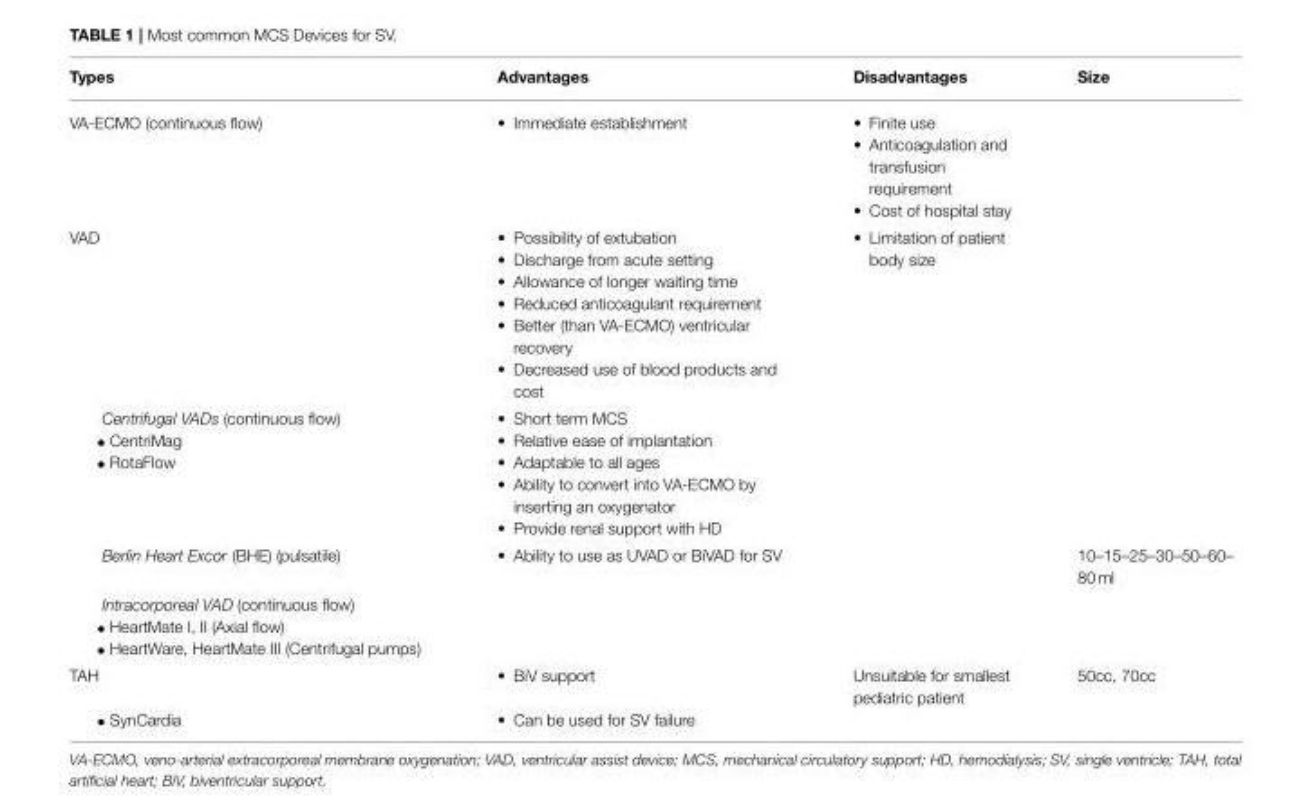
<table><thead><tr><td>Types</td><td>Advantages</td><td>Disadvantages</td><td>Size</td></tr></thead><tbody><tr><td>VA-ECMO (continuous flow)</td><td>• Immediate establishment</td><td>• Finite use • Anticoagulation and transfusion requirement • Cost of hospital stay</td><td></td></tr><tr><td>VAD</td><td>• Possibility of extubation • Discharge from acute setting • Allowance of longer waiting time • Reduced anticoagulant requirement • Better (than VA-ECMO) ventricular recovery • Decreased use of blood products and cost</td><td>• Limitation of patient body size</td><td></td></tr><tr><td>Centrifugal VADs (continuous flow) • CentriMag • RotaFlow</td><td>• Short term MCS • Relative ease of implantation • Adaptable to all ages • Ability to convert into VA-ECMO by inserting an oxygenator • Provide renal support with HD</td><td></td><td></td></tr><tr><td>Berlin Heart Excor (BHE) (pulsatile)</td><td>• Ability to use as UVAD or BiVAD for SV</td><td></td><td>10–15–25–30–50–60– 80 ml</td></tr><tr><td colspan="4">Intracorporeal VAD (continuous flow) • HeartMate I, II (Axial flow) • HeartWare, HeartMate III (Centrifugal pumps)</td></tr><tr><td>TAH • SynCardia</td><td>• BiV support • Can be used for SV failure</td><td>Unsuitable for smallest pediatric patient</td><td>50cc, 70cc</td></tr></tbody></table>